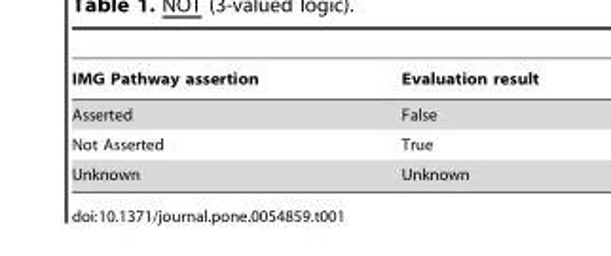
<table><thead><tr><td>IMG Pathway assertion</td><td>Evaluation result</td></tr></thead><tbody><tr><td>Asserted</td><td>False</td></tr><tr><td>Not Asserted</td><td>True</td></tr><tr><td>Unknown</td><td>Unknown</td></tr></tbody></table>